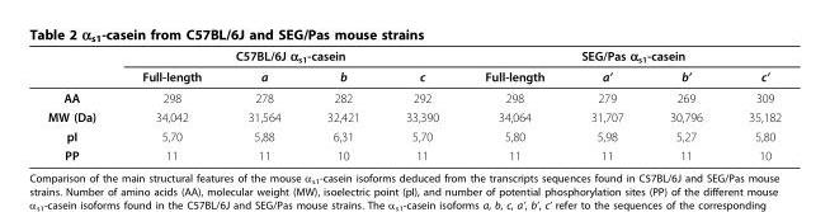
<table><thead><tr><td rowspan="2"></td><td colspan="4">C57BL/6J α<sub>s1</sub>-casein</td><td colspan="4">SEG/Pas α<sub>s1</sub>-casein</td></tr><tr><td>Full-length</td><td>a</td><td>b</td><td>c</td><td>Full-length</td><td>a’</td><td>b’</td><td>c’</td></tr></thead><tbody><tr><td>AA</td><td>298</td><td>278</td><td>282</td><td>292</td><td>298</td><td>279</td><td>269</td><td>309</td></tr><tr><td>MW (Da)</td><td>34,042</td><td>31,564</td><td>32,421</td><td>33,390</td><td>34,064</td><td>31,707</td><td>30,796</td><td>35,182</td></tr><tr><td>pI</td><td>5,70</td><td>5,88</td><td>6,31</td><td>5,70</td><td>5,80</td><td>5,98</td><td>5,27</td><td>5,80</td></tr><tr><td>PP</td><td>11</td><td>11</td><td>10</td><td>11</td><td>11</td><td>11</td><td>11</td><td>10</td></tr></tbody></table>